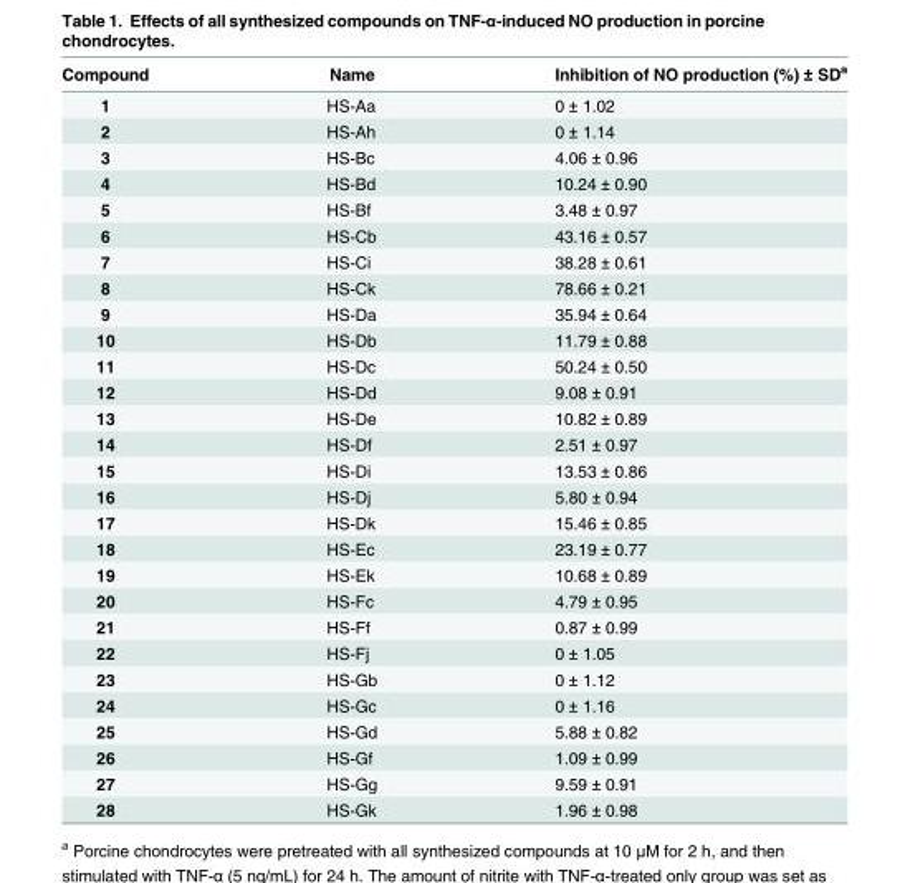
<table><thead><tr><td>Compound</td><td>Name</td><td>Inhibition of NO production (%) ± SD<sup>a</sup></td></tr></thead><tbody><tr><td>1</td><td>HS-Aa</td><td>0 ± 1.02</td></tr><tr><td>2</td><td>HS-Ah</td><td>0 ± 1.14</td></tr><tr><td>3</td><td>HS-Bc</td><td>4.06 ± 0.96</td></tr><tr><td>4</td><td>HS-Bd</td><td>10.24 ± 0.90</td></tr><tr><td>5</td><td>HS-Bf</td><td>3.48 ± 0.97</td></tr><tr><td>6</td><td>HS-Cb</td><td>43.16 ± 0.57</td></tr><tr><td>7</td><td>HS-Ci</td><td>38.28 ± 0.61</td></tr><tr><td>8</td><td>HS-Ck</td><td>78.66 ± 0.21</td></tr><tr><td>9</td><td>HS-Da</td><td>35.94 ± 0.64</td></tr><tr><td>10</td><td>HS-Db</td><td>11.79 ± 0.88</td></tr><tr><td>11</td><td>HS-Dc</td><td>50.24 ± 0.50</td></tr><tr><td>12</td><td>HS-Dd</td><td>9.08 ± 0.91</td></tr><tr><td>13</td><td>HS-De</td><td>10.82 ± 0.89</td></tr><tr><td>14</td><td>HS-Df</td><td>2.51 ± 0.97</td></tr><tr><td>15</td><td>HS-Di</td><td>13.53 ± 0.86</td></tr><tr><td>16</td><td>HS-Dj</td><td>5.80 ± 0.94</td></tr><tr><td>17</td><td>HS-Dk</td><td>15.46 ± 0.85</td></tr><tr><td>18</td><td>HS-Ec</td><td>23.19 ± 0.77</td></tr><tr><td>19</td><td>HS-Ek</td><td>10.68 ± 0.89</td></tr><tr><td>20</td><td>HS-Fc</td><td>4.79 ± 0.95</td></tr><tr><td>21</td><td>HS-Ff</td><td>0.87 ± 0.99</td></tr><tr><td>22</td><td>HS-Fj</td><td>0 ± 1.05</td></tr><tr><td>23</td><td>HS-Gb</td><td>0 ± 1.12</td></tr><tr><td>24</td><td>HS-Gc</td><td>0 ± 1.16</td></tr><tr><td>25</td><td>HS-Gd</td><td>5.88 ± 0.82</td></tr><tr><td>26</td><td>HS-Gf</td><td>1.09 ± 0.99</td></tr><tr><td>27</td><td>HS-Gg</td><td>9.59 ± 0.91</td></tr><tr><td>28</td><td>HS-Gk</td><td>1.96 ± 0.98</td></tr></tbody></table>